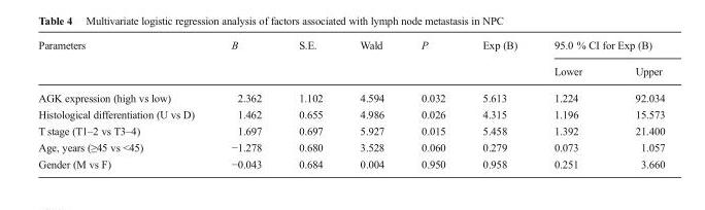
<table><thead><tr><td rowspan="2">Parameters</td><td rowspan="2">B</td><td rowspan="2">S.E.</td><td rowspan="2">Wald</td><td rowspan="2">P</td><td rowspan="2">Exp (B)</td><td colspan="2">95.0 % CI for Exp (B)</td></tr><tr><td>Lower</td><td>Upper</td></tr></thead><tbody><tr><td>AGK expression (high vs low)</td><td>2.362</td><td>1.102</td><td>4.594</td><td>0.032</td><td>5.613</td><td>1.224</td><td>92.034</td></tr><tr><td>Histological differentiation (U vs D)</td><td>1.462</td><td>0.655</td><td>4.986</td><td>0.026</td><td>4.315</td><td>1.196</td><td>15.573</td></tr><tr><td>T stage (T1–2 vs T3–4)</td><td>1.697</td><td>0.697</td><td>5.927</td><td>0.015</td><td>5.458</td><td>1.392</td><td>21.400</td></tr><tr><td>Age, years (≥45 vs &lt;45)</td><td>−1.278</td><td>0.680</td><td>3.528</td><td>0.060</td><td>0.279</td><td>0.073</td><td>1.057</td></tr><tr><td>Gender (M vs F)</td><td>−0.043</td><td>0.684</td><td>0.004</td><td>0.950</td><td>0.958</td><td>0.251</td><td>3.660</td></tr></tbody></table>